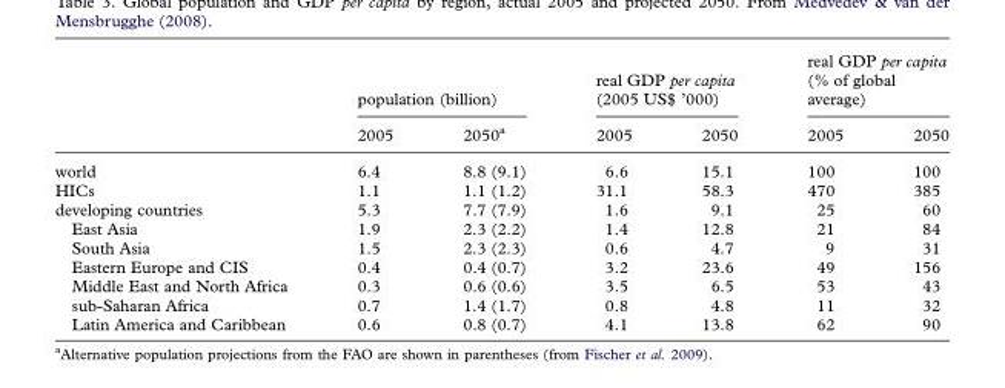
<table><thead><tr><td rowspan="2"></td><td colspan="2">population (billion)</td><td colspan="2">real GDP per capita (2005 US$ ’000)</td><td colspan="2">real GDP per capita (% of global average)</td></tr><tr><td>2005</td><td>2050<sup>a</sup></td><td>2005</td><td>2050</td><td>2005</td><td>2050</td></tr></thead><tbody><tr><td>world</td><td>6.4</td><td>8.8 (9.1)</td><td>6.6</td><td>15.1</td><td>100</td><td>100</td></tr><tr><td>HICs</td><td>1.1</td><td>1.1 (1.2)</td><td>31.1</td><td>58.3</td><td>470</td><td>385</td></tr><tr><td>developing countries</td><td>5.3</td><td>7.7 (7.9)</td><td>1.6</td><td>9.1</td><td>25</td><td>60</td></tr><tr><td>East Asia</td><td>1.9</td><td>2.3 (2.2)</td><td>1.4</td><td>12.8</td><td>21</td><td>84</td></tr><tr><td>South Asia</td><td>1.5</td><td>2.3 (2.3)</td><td>0.6</td><td>4.7</td><td>9</td><td>31</td></tr><tr><td>Eastern Europe and CIS</td><td>0.4</td><td>0.4 (0.7)</td><td>3.2</td><td>23.6</td><td>49</td><td>156</td></tr><tr><td>Middle East and North Africa</td><td>0.3</td><td>0.6 (0.6)</td><td>3.5</td><td>6.5</td><td>53</td><td>43</td></tr><tr><td>sub-Saharan Africa</td><td>0.7</td><td>1.4 (1.7)</td><td>0.8</td><td>4.8</td><td>11</td><td>32</td></tr><tr><td>Latin America and Caribbean</td><td>0.6</td><td>0.8 (0.7)</td><td>4.1</td><td>13.8</td><td>62</td><td>90</td></tr></tbody></table>